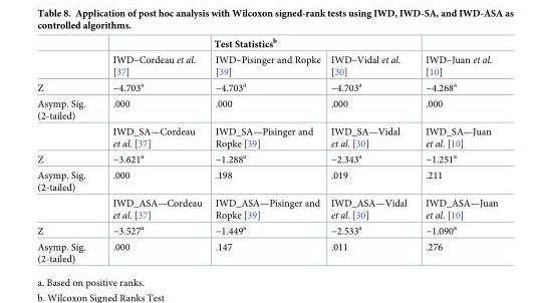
<table><thead><tr><td rowspan="2"></td><td rowspan="2">IWD–Cordeau et al. [37]</td><td colspan="2">Test Statistics<sup>b</sup></td><td rowspan="2">IWD–Juan et al. [10]</td></tr><tr><td>IWD–Pisinger and Ropke [39]</td><td>IWD–Vidal et al. [30]</td></tr></thead><tbody><tr><td>Z</td><td>−4.703<sup>a</sup></td><td>−4.703<sup>a</sup></td><td>−4.703<sup>a</sup></td><td>−4.268<sup>a</sup></td></tr><tr><td rowspan="2">Asymp. Sig. (2-tailed)</td><td>.000</td><td>.000</td><td>.000</td><td>.000</td></tr><tr><td>IWD_SA—Cordeau et al. [37]</td><td>IWD_SA—Pisinger and Ropke [39]</td><td>IWD_SA—Vidal et al. [30]</td><td>IWD_SA—Juan et al. [10]</td></tr><tr><td>Z</td><td>−3.621<sup>a</sup></td><td>−1.288<sup>a</sup></td><td>−2.343<sup>a</sup></td><td>−1.251<sup>a</sup></td></tr><tr><td rowspan="2">Asymp. Sig. (2-tailed)</td><td>.000</td><td>.198</td><td>.019</td><td>.211</td></tr><tr><td>IWD_ASA—Cordeau et al. [37]</td><td>IWD_ASA—Pisinger and Ropke [39]</td><td>IWD_ASA—Vidal et al. [30]</td><td>IWD_ASA—Juan et al. [10]</td></tr><tr><td>Z</td><td>−3.527<sup>a</sup></td><td>−1.449<sup>a</sup></td><td>−2.533<sup>a</sup></td><td>−1.090<sup>a</sup></td></tr><tr><td>Asymp. Sig. (2-tailed)</td><td>.000</td><td>.147</td><td>.011</td><td>.276</td></tr></tbody></table>